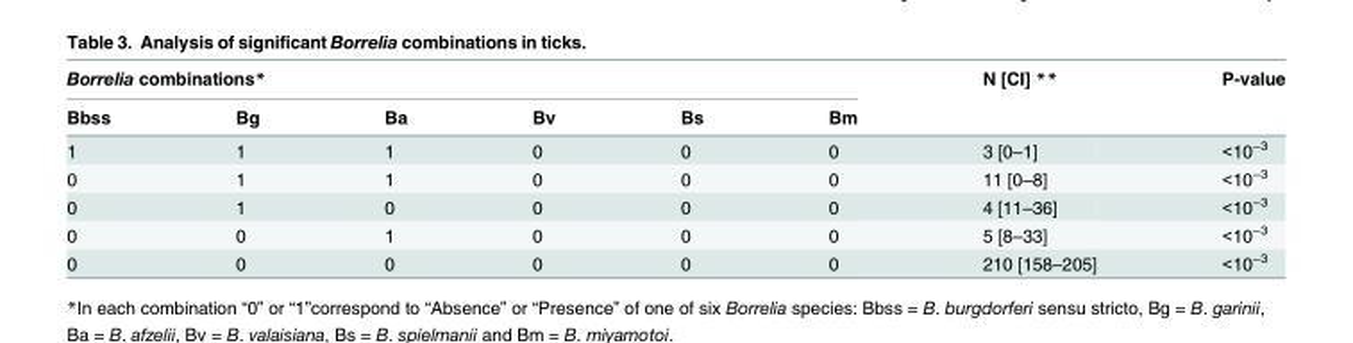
<table><thead><tr><td colspan="6">Borrelia combinations*</td><td rowspan="2">N [CI] **</td><td rowspan="2">P-value</td></tr><tr><td>Bbss</td><td>Bg</td><td>Ba</td><td>Bv</td><td>Bs</td><td>Bm</td></tr></thead><tbody><tr><td>1</td><td>1</td><td>1</td><td>0</td><td>0</td><td>0</td><td>3 [0–1]</td><td>&lt;10<sup>−3</sup></td></tr><tr><td>0</td><td>1</td><td>1</td><td>0</td><td>0</td><td>0</td><td>11 [0–8]</td><td>&lt;10<sup>−3</sup></td></tr><tr><td>0</td><td>1</td><td>0</td><td>0</td><td>0</td><td>0</td><td>4 [11–36]</td><td>&lt;10<sup>−3</sup></td></tr><tr><td>0</td><td>0</td><td>1</td><td>0</td><td>0</td><td>0</td><td>5 [8–33]</td><td>&lt;10<sup>−3</sup></td></tr><tr><td>0</td><td>0</td><td>0</td><td>0</td><td>0</td><td>0</td><td>210 [158–205]</td><td>&lt;10<sup>−3</sup></td></tr></tbody></table>